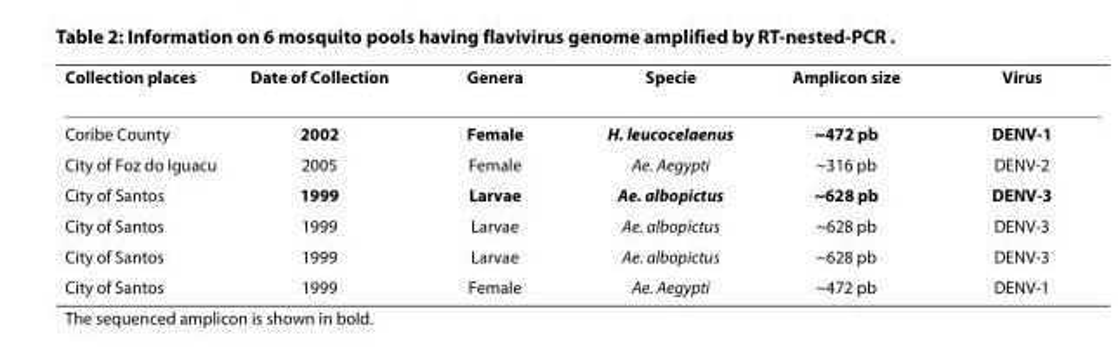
<table><thead><tr><td>Collection places</td><td>Date of Collection</td><td>Genera</td><td>Specie</td><td>Amplicon size</td><td>Virus</td></tr></thead><tbody><tr><td>Coribe County</td><td>2002</td><td>Female</td><td>H. leucocelaenus</td><td>~472 pb</td><td>DENV-1</td></tr><tr><td>City of Foz do Iguacu</td><td>2005</td><td>Female</td><td>Ae. Aegypti</td><td>~316 pb</td><td>DENV-2</td></tr><tr><td>City of Santos</td><td>1999</td><td>Larvae</td><td>Ae. albopictus</td><td>~628 pb</td><td>DENV-3</td></tr><tr><td>City of Santos</td><td>1999</td><td>Larvae</td><td>Ae. albopictus</td><td>~628 pb</td><td>DENV-3</td></tr><tr><td>City of Santos</td><td>1999</td><td>Larvae</td><td>Ae. albopictus</td><td>~628 pb</td><td>DENV-3</td></tr><tr><td>City of Santos</td><td>1999</td><td>Female</td><td>Ae. Aegypti</td><td>~472 pb</td><td>DENV-1</td></tr></tbody></table>